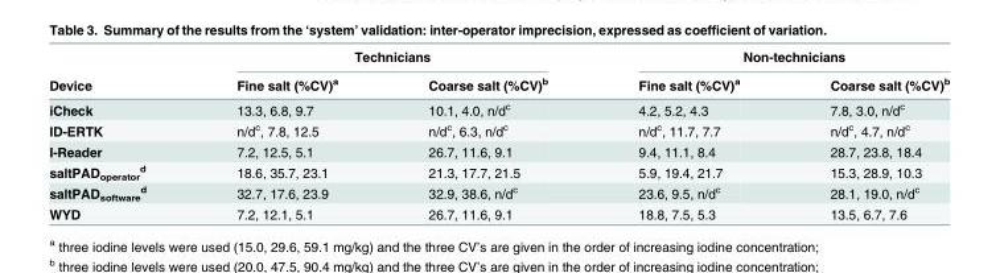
<table><thead><tr><td rowspan="2">Device</td><td colspan="2">Technicians</td><td colspan="2">Non-technicians</td></tr><tr><td>Fine salt (%CV)<sup>a</sup></td><td>Coarse salt (%CV)<sup>b</sup></td><td>Fine salt (%CV)<sup>a</sup></td><td>Coarse salt (%CV)<sup>b</sup></td></tr></thead><tbody><tr><td>iCheck</td><td>13.3, 6.8, 9.7</td><td>10.1, 4.0, n/d<sup>c</sup></td><td>4.2, 5.2, 4.3</td><td>7.8, 3.0, n/d<sup>c</sup></td></tr><tr><td>ID-ERTK</td><td>n/d<sup>c</sup>, 7.8, 12.5</td><td>n/d<sup>c</sup>, 6.3, n/d<sup>c</sup></td><td>n/d<sup>c</sup>, 11.7, 7.7</td><td>n/d<sup>c</sup>, 4.7, n/d<sup>c</sup></td></tr><tr><td>I-Reader</td><td>7.2, 12.5, 5.1</td><td>26.7, 11.6, 9.1</td><td>9.4, 11.1, 8.4</td><td>28.7, 23.8, 18.4</td></tr><tr><td>saltPAD<sub>operator</sub> <sup>d</sup></td><td>18.6, 35.7, 23.1</td><td>21.3, 17.7, 21.5</td><td>5.9, 19.4, 21.7</td><td>15.3, 28.9, 10.3</td></tr><tr><td>saltPAD<sub>software</sub> <sup>d</sup></td><td>32.7, 17.6, 23.9</td><td>32.9, 38.6, n/d<sup>c</sup></td><td>23.6, 9.5, n/d<sup>c</sup></td><td>28.1, 19.0, n/d<sup>c</sup></td></tr><tr><td>WYD</td><td>7.2, 12.1, 5.1</td><td>26.7, 11.6, 9.1</td><td>18.8, 7.5, 5.3</td><td>13.5, 6.7, 7.6</td></tr></tbody></table>